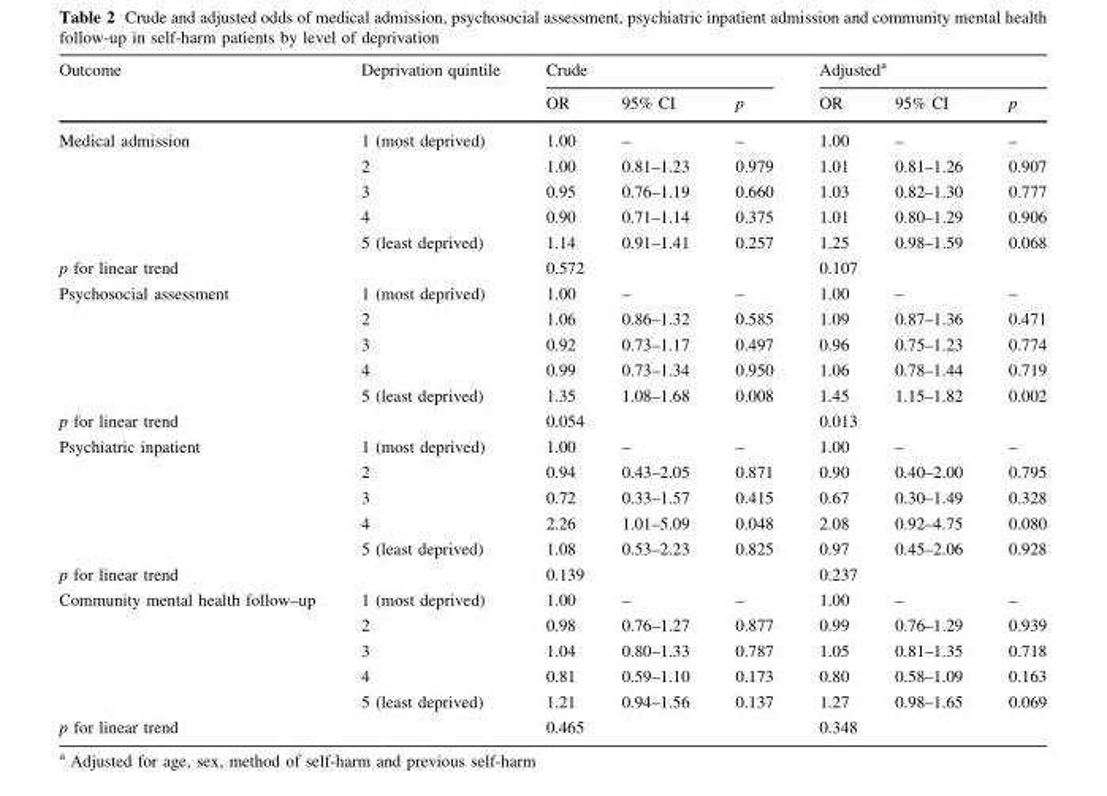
<table><thead><tr><td rowspan="2">Outcome</td><td rowspan="2">Deprivation quintile</td><td colspan="3">Crude</td><td colspan="3">Adjusted<sup>a</sup></td></tr><tr><td>OR</td><td>95% CI</td><td>p</td><td>OR</td><td>95% CI</td><td>p</td></tr></thead><tbody><tr><td rowspan="5">Medical admission</td><td>1 (most deprived)</td><td>1.00</td><td>–</td><td>–</td><td>1.00</td><td>–</td><td>–</td></tr><tr><td>2</td><td>1.00</td><td>0.81–1.23</td><td>0.979</td><td>1.01</td><td>0.81–1.26</td><td>0.907</td></tr><tr><td>3</td><td>0.95</td><td>0.76–1.19</td><td>0.660</td><td>1.03</td><td>0.82–1.30</td><td>0.777</td></tr><tr><td>4</td><td>0.90</td><td>0.71–1.14</td><td>0.375</td><td>1.01</td><td>0.80–1.29</td><td>0.906</td></tr><tr><td>5 (least deprived)</td><td>1.14</td><td>0.91–1.41</td><td>0.257</td><td>1.25</td><td>0.98–1.59</td><td>0.068</td></tr><tr><td colspan="2">p for linear trend</td><td colspan="3">0.572</td><td colspan="3">0.107</td></tr><tr><td rowspan="5">Psychosocial assessment</td><td>1 (most deprived)</td><td>1.00</td><td>–</td><td>–</td><td>1.00</td><td>–</td><td>–</td></tr><tr><td>2</td><td>1.06</td><td>0.86–1.32</td><td>0.585</td><td>1.09</td><td>0.87–1.36</td><td>0.471</td></tr><tr><td>3</td><td>0.92</td><td>0.73–1.17</td><td>0.497</td><td>0.96</td><td>0.75–1.23</td><td>0.774</td></tr><tr><td>4</td><td>0.99</td><td>0.73–1.34</td><td>0.950</td><td>1.06</td><td>0.78–1.44</td><td>0.719</td></tr><tr><td>5 (least deprived)</td><td>1.35</td><td>1.08–1.68</td><td>0.008</td><td>1.45</td><td>1.15–1.82</td><td>0.002</td></tr><tr><td colspan="2">p for linear trend</td><td colspan="3">0.054</td><td colspan="3">0.013</td></tr><tr><td rowspan="5">Psychiatric inpatient</td><td>1 (most deprived)</td><td>1.00</td><td>–</td><td>–</td><td>1.00</td><td>–</td><td>–</td></tr><tr><td>2</td><td>0.94</td><td>0.43–2.05</td><td>0.871</td><td>0.90</td><td>0.40–2.00</td><td>0.795</td></tr><tr><td>3</td><td>0.72</td><td>0.33–1.57</td><td>0.415</td><td>0.67</td><td>0.30–1.49</td><td>0.328</td></tr><tr><td>4</td><td>2.26</td><td>1.01–5.09</td><td>0.048</td><td>2.08</td><td>0.92–4.75</td><td>0.080</td></tr><tr><td>5 (least deprived)</td><td>1.08</td><td>0.53–2.23</td><td>0.825</td><td>0.97</td><td>0.45–2.06</td><td>0.928</td></tr><tr><td colspan="2">p for linear trend</td><td colspan="3">0.139</td><td colspan="3">0.237</td></tr><tr><td rowspan="5">Community mental health follow–up</td><td>1 (most deprived)</td><td>1.00</td><td>–</td><td>–</td><td>1.00</td><td>–</td><td>–</td></tr><tr><td>2</td><td>0.98</td><td>0.76–1.27</td><td>0.877</td><td>0.99</td><td>0.76–1.29</td><td>0.939</td></tr><tr><td>3</td><td>1.04</td><td>0.80–1.33</td><td>0.787</td><td>1.05</td><td>0.81–1.35</td><td>0.718</td></tr><tr><td>4</td><td>0.81</td><td>0.59–1.10</td><td>0.173</td><td>0.80</td><td>0.58–1.09</td><td>0.163</td></tr><tr><td>5 (least deprived)</td><td>1.21</td><td>0.94–1.56</td><td>0.137</td><td>1.27</td><td>0.98–1.65</td><td>0.069</td></tr><tr><td colspan="2">p for linear trend</td><td colspan="3">0.465</td><td colspan="3">0.348</td></tr></tbody></table>